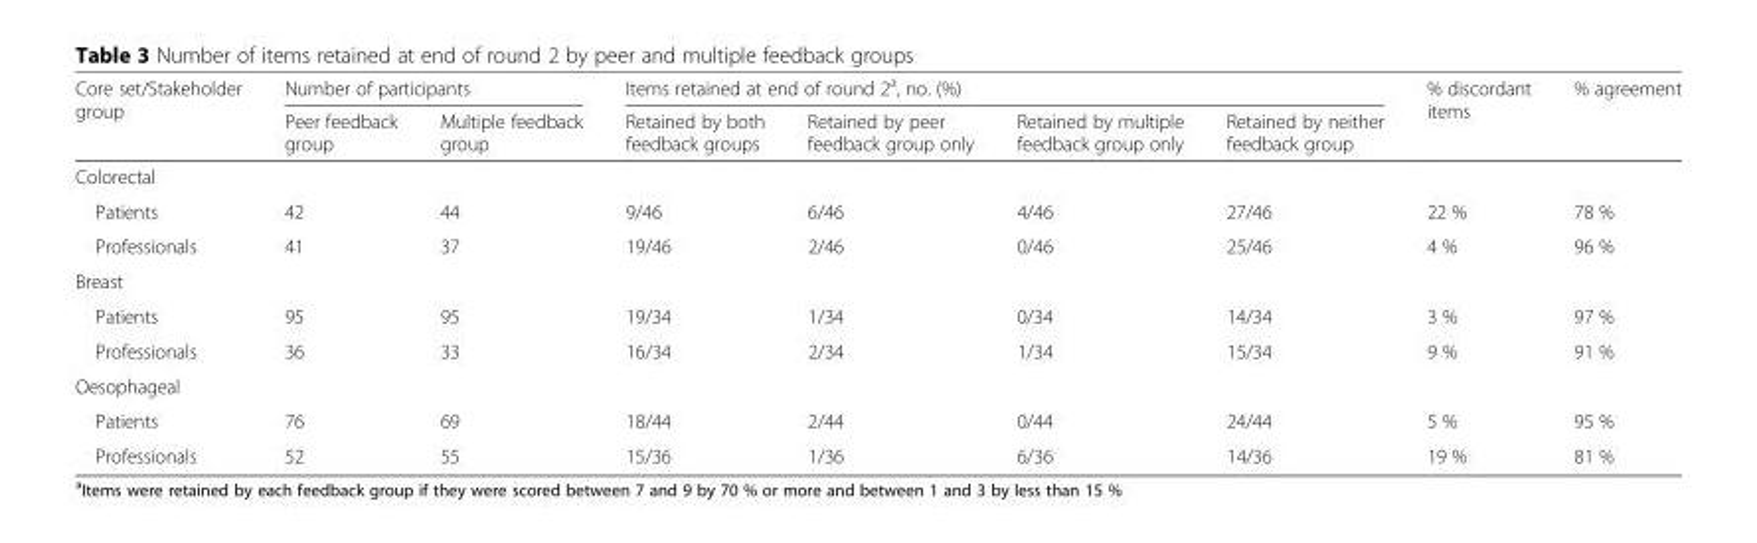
<table><thead><tr><td rowspan="2">Core set/Stakeholder group</td><td colspan="2">Number of participants</td><td colspan="4">Items retained at end of round 2<sup>a</sup>, no. (%)</td><td rowspan="2">% discordant items</td><td rowspan="2">% agreement</td></tr><tr><td>Peer feedback group</td><td>Multiple feedback group</td><td>Retained by both feedback groups</td><td>Retained by peer feedback group only</td><td>Retained by multiple feedback group only</td><td>Retained by neither feedback group</td></tr></thead><tbody><tr><td colspan="9">Colorectal</td></tr><tr><td>Patients</td><td>42</td><td>44</td><td>9/46</td><td>6/46</td><td>4/46</td><td>27/46</td><td>22 %</td><td>78 %</td></tr><tr><td>Professionals</td><td>41</td><td>37</td><td>19/46</td><td>2/46</td><td>0/46</td><td>25/46</td><td>4 %</td><td>96 %</td></tr><tr><td colspan="9">Breast</td></tr><tr><td>Patients</td><td>95</td><td>95</td><td>19/34</td><td>1/34</td><td>0/34</td><td>14/34</td><td>3 %</td><td>97 %</td></tr><tr><td>Professionals</td><td>36</td><td>33</td><td>16/34</td><td>2/34</td><td>1/34</td><td>15/34</td><td>9 %</td><td>91 %</td></tr><tr><td colspan="9">Oesophageal</td></tr><tr><td>Patients</td><td>76</td><td>69</td><td>18/44</td><td>2/44</td><td>0/44</td><td>24/44</td><td>5 %</td><td>95 %</td></tr><tr><td>Professionals</td><td>52</td><td>55</td><td>15/36</td><td>1/36</td><td>6/36</td><td>14/36</td><td>19 %</td><td>81 %</td></tr></tbody></table>